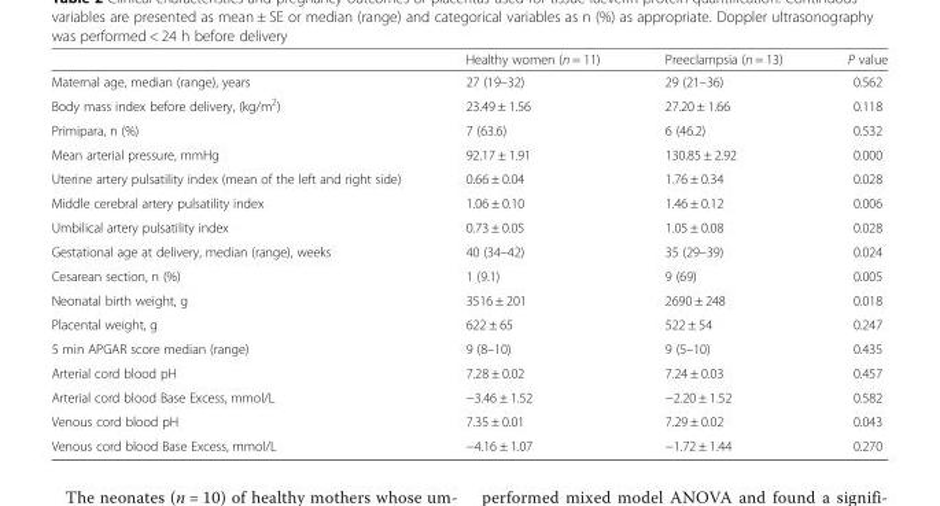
<table><thead><tr><td></td><td>Healthy women (n = 11)</td><td>Preeclampsia (n = 13)</td><td>P value</td></tr></thead><tbody><tr><td>Maternal age, median (range), years</td><td>27 (19–32)</td><td>29 (21–36)</td><td>0.562</td></tr><tr><td>Body mass index before delivery, (kg/m<sup>2</sup>)</td><td>23.49 ± 1.56</td><td>27.20 ± 1.66</td><td>0.118</td></tr><tr><td>Primipara, n (%)</td><td>7 (63.6)</td><td>6 (46.2)</td><td>0.532</td></tr><tr><td>Mean arterial pressure, mmHg</td><td>92.17 ± 1.91</td><td>130.85 ± 2.92</td><td>0.000</td></tr><tr><td>Uterine artery pulsatility index (mean of the left and right side)</td><td>0.66 ± 0.04</td><td>1.76 ± 0.34</td><td>0.028</td></tr><tr><td>Middle cerebral artery pulsatility index</td><td>1.06 ± 0.10</td><td>1.46 ± 0.12</td><td>0.006</td></tr><tr><td>Umbilical artery pulsatility index</td><td>0.73 ± 0.05</td><td>1.05 ± 0.08</td><td>0.028</td></tr><tr><td>Gestational age at delivery, median (range), weeks</td><td>40 (34–42)</td><td>35 (29–39)</td><td>0.024</td></tr><tr><td>Cesarean section, n (%)</td><td>1 (9.1)</td><td>9 (69)</td><td>0.005</td></tr><tr><td>Neonatal birth weight, g</td><td>3516 ± 201</td><td>2690 ± 248</td><td>0.018</td></tr><tr><td>Placental weight, g</td><td>622 ± 65</td><td>522 ± 54</td><td>0.247</td></tr><tr><td>5 min APGAR score median (range)</td><td>9 (8–10)</td><td>9 (5–10)</td><td>0.435</td></tr><tr><td>Arterial cord blood pH</td><td>7.28 ± 0.02</td><td>7.24 ± 0.03</td><td>0.457</td></tr><tr><td>Arterial cord blood Base Excess, mmol/L</td><td>−3.46 ± 1.52</td><td>−2.20 ± 1.52</td><td>0.582</td></tr><tr><td>Venous cord blood pH</td><td>7.35 ± 0.01</td><td>7.29 ± 0.02</td><td>0.043</td></tr><tr><td>Venous cord blood Base Excess, mmol/L</td><td>−4.16 ± 1.07</td><td>−1.72 ± 1.44</td><td>0.270</td></tr></tbody></table>